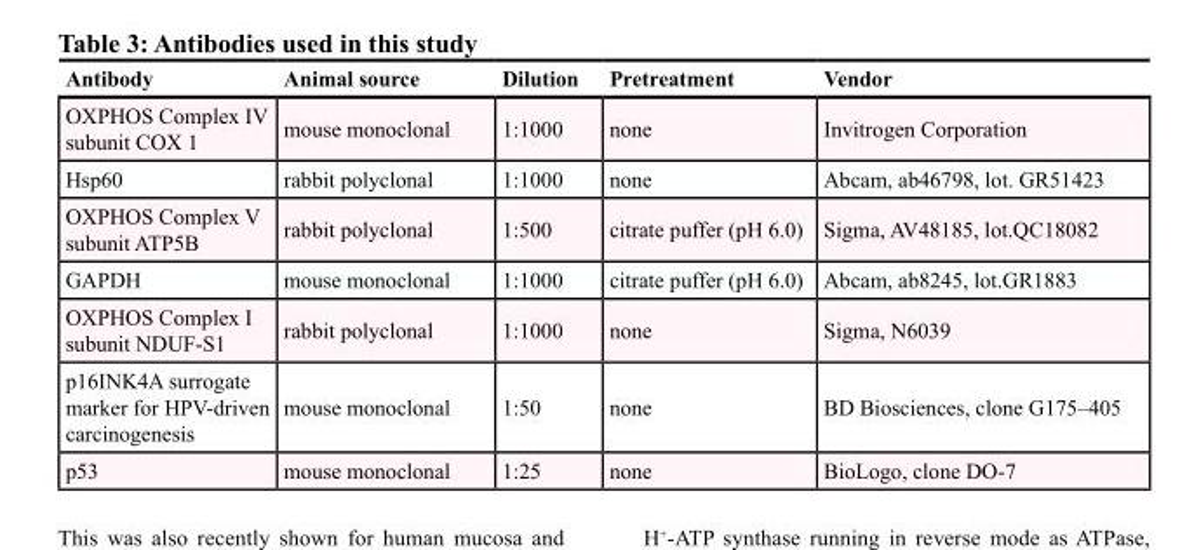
<table><thead><tr><td>Antibody</td><td>Animal source</td><td>Dilution</td><td>Pretreatment</td><td>Vendor</td></tr></thead><tbody><tr><td>OXPHOS Complex IV subunit COX 1</td><td>mouse monoclonal</td><td>1:1000</td><td>none</td><td>Invitrogen Corporation</td></tr><tr><td>Hsp60</td><td>rabbit polyclonal</td><td>1:1000</td><td>none</td><td>Abcam, ab46798, lot. GR51423</td></tr><tr><td>OXPHOS Complex V subunit ATP5B</td><td>rabbit polyclonal</td><td>1:500</td><td>citrate puffer (pH 6.0)</td><td>Sigma, AV48185, lot.QC18082</td></tr><tr><td>GAPDH</td><td>mouse monoclonal</td><td>1:1000</td><td>citrate puffer (pH 6.0)</td><td>Abcam, ab8245, lot.GR1883</td></tr><tr><td>OXPHOS Complex I subunit NDUF-S1</td><td>rabbit polyclonal</td><td>1:1000</td><td>none</td><td>Sigma, N6039</td></tr><tr><td>p16INK4A surrogate marker for HPV-driven carcinogenesis</td><td>mouse monoclonal</td><td>1:50</td><td>none</td><td>BD Biosciences, clone G175–405</td></tr><tr><td>p53</td><td>mouse monoclonal</td><td>1:25</td><td>none</td><td>BioLogo, clone DO-7</td></tr></tbody></table>